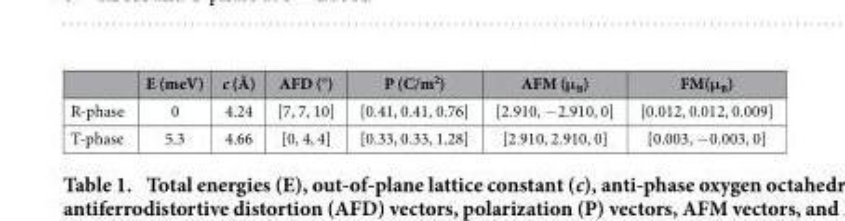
<table><thead><tr><td></td><td>E (meV)</td><td>c (Å)</td><td>AFD (°)</td><td>P (C/m<sup>2</sup>)</td><td>AFM (μ<sub>B</sub>)</td><td>FM(μ<sub>B</sub>)</td></tr></thead><tbody><tr><td>R-phase</td><td>0</td><td>4.24</td><td>[7, 7, 10]</td><td>[0.41, 0.41, 0.76]</td><td>[2.910, − 2.910, 0]</td><td>[0.012, 0.012, 0.009]</td></tr><tr><td>T-phase</td><td>5.3</td><td>4.66</td><td>[0, 4, 4]</td><td>[0.33, 0.33, 1.28]</td><td>[2.910, 2.910, 0]</td><td>[0.003, − 0.003, 0]</td></tr></tbody></table>